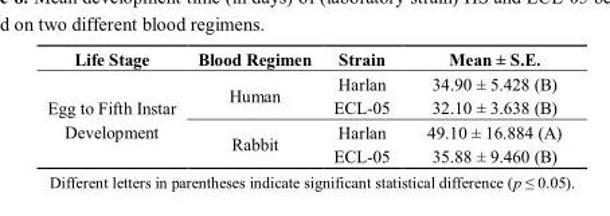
<table><thead><tr><td>Life Stage</td><td>Blood Regimen</td><td>Strain</td><td>Mean ± S.E.</td></tr></thead><tbody><tr><td rowspan="4">Egg to Fifth Instar Development</td><td rowspan="2">Human</td><td>Harlan</td><td>34.90 ± 5.428 (B)</td></tr><tr><td>ECL-05</td><td>32.10 ± 3.638 (B)</td></tr><tr><td rowspan="2">Rabbit</td><td>Harlan</td><td>49.10 ± 16.884 (A)</td></tr><tr><td>ECL-05</td><td>35.88 ± 9.460 (B)</td></tr></tbody></table>